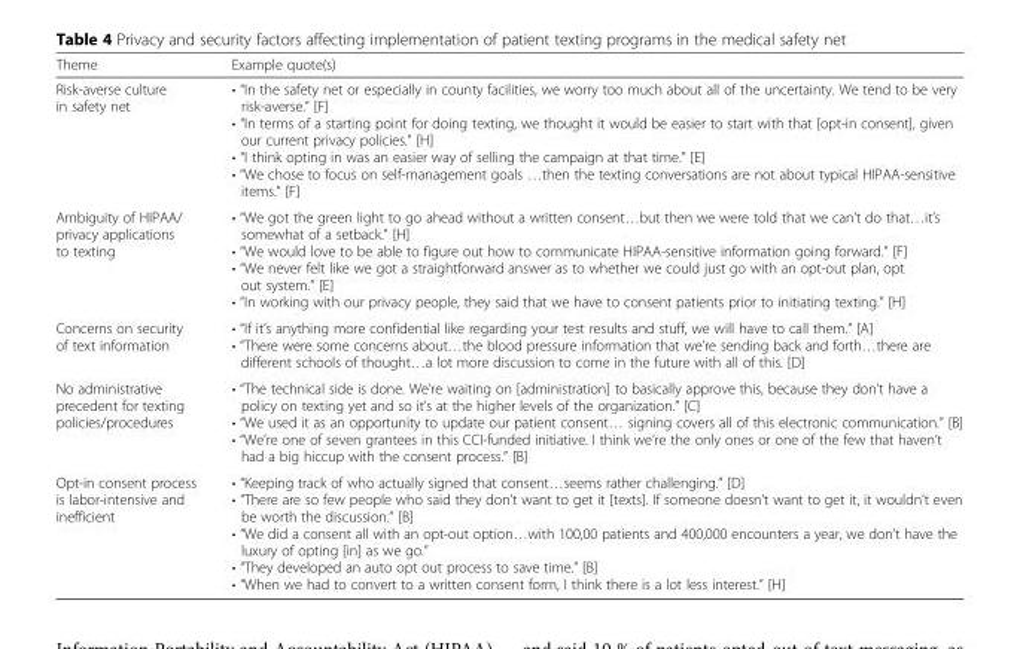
<table><thead><tr><td>Theme</td><td>Example quote(s)</td></tr></thead><tbody><tr><td>Risk-averse culture in safety net</td><td>• “In the safety net or especially in county facilities, we worry too much about all of the uncertainty. We tend to be very risk-averse.” [F] • “In terms of a starting point for doing texting, we thought it would be easier to start with that [opt-in consent], given our current privacy policies.” [H] • “I think opting in was an easier way of selling the campaign at that time.” [E] • “We chose to focus on self-management goals …then the texting conversations are not about typical HIPAA-sensitive items.” [F]</td></tr><tr><td>Ambiguity of HIPAA/ privacy applications to texting</td><td>• “We got the green light to go ahead without a written consent…but then we were told that we can’t do that…it’s somewhat of a setback.” [H] • “We would love to be able to figure out how to communicate HIPAA-sensitive information going forward.” [F] • “We never felt like we got a straightforward answer as to whether we could just go with an opt-out plan, opt out system.” [E] • “In working with our privacy people, they said that we have to consent patients prior to initiating texting.” [H]</td></tr><tr><td>Concerns on security of text information</td><td>• “If it’s anything more confidential like regarding your test results and stuff, we will have to call them.” [A] • “There were some concerns about…the blood pressure information that we’re sending back and forth…there are different schools of thought…a lot more discussion to come in the future with all of this. [D]</td></tr><tr><td>No administrative precedent for texting policies/procedures</td><td>• “The technical side is done. We’re waiting on [administration] to basically approve this, because they don’t have a policy on texting yet and so it’s at the higher levels of the organization.” [C] • “We used it as an opportunity to update our patient consent… signing covers all of this electronic communication.” [B] • “We’re one of seven grantees in this CCI-funded initiative. I think we’re the only ones or one of the few that haven’t had a big hiccup with the consent process.” [B]</td></tr><tr><td>Opt-in consent process is labor-intensive and inefficient</td><td>• “Keeping track of who actually signed that consent…seems rather challenging.” [D] • “There are so few people who said they don’t want to get it [texts]. If someone doesn’t want to get it, it wouldn’t even be worth the discussion.” [B] • “We did a consent all with an opt-out option…with 100,00 patients and 400,000 encounters a year, we don’t have the luxury of opting [in] as we go.” • “They developed an auto opt out process to save time.” [B] • “When we had to convert to a written consent form, I think there is a lot less interest.” [H]</td></tr></tbody></table>